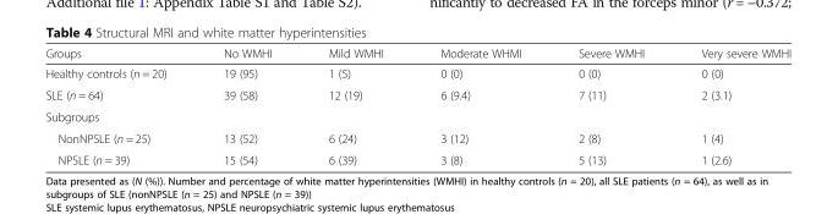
<table><thead><tr><td>Groups</td><td>No WMHI</td><td>Mild WMHI</td><td>Moderate WHMI</td><td>Severe WMHI</td><td>Very severe WMHI</td></tr></thead><tbody><tr><td>Healthy controls (n = 20)</td><td>19 (95)</td><td>1 (5)</td><td>0 (0)</td><td>0 (0)</td><td>0 (0)</td></tr><tr><td>SLE (n = 64)</td><td>39 (58)</td><td>12 (19)</td><td>6 (9.4)</td><td>7 (11)</td><td>2 (3.1)</td></tr><tr><td colspan="6">Subgroups</td></tr><tr><td>NonNPSLE (n = 25)</td><td>13 (52)</td><td>6 (24)</td><td>3 (12)</td><td>2 (8)</td><td>1 (4)</td></tr><tr><td>NPSLE (n = 39)</td><td>15 (54)</td><td>6 (39)</td><td>3 (8)</td><td>5 (13)</td><td>1 (2.6)</td></tr></tbody></table>